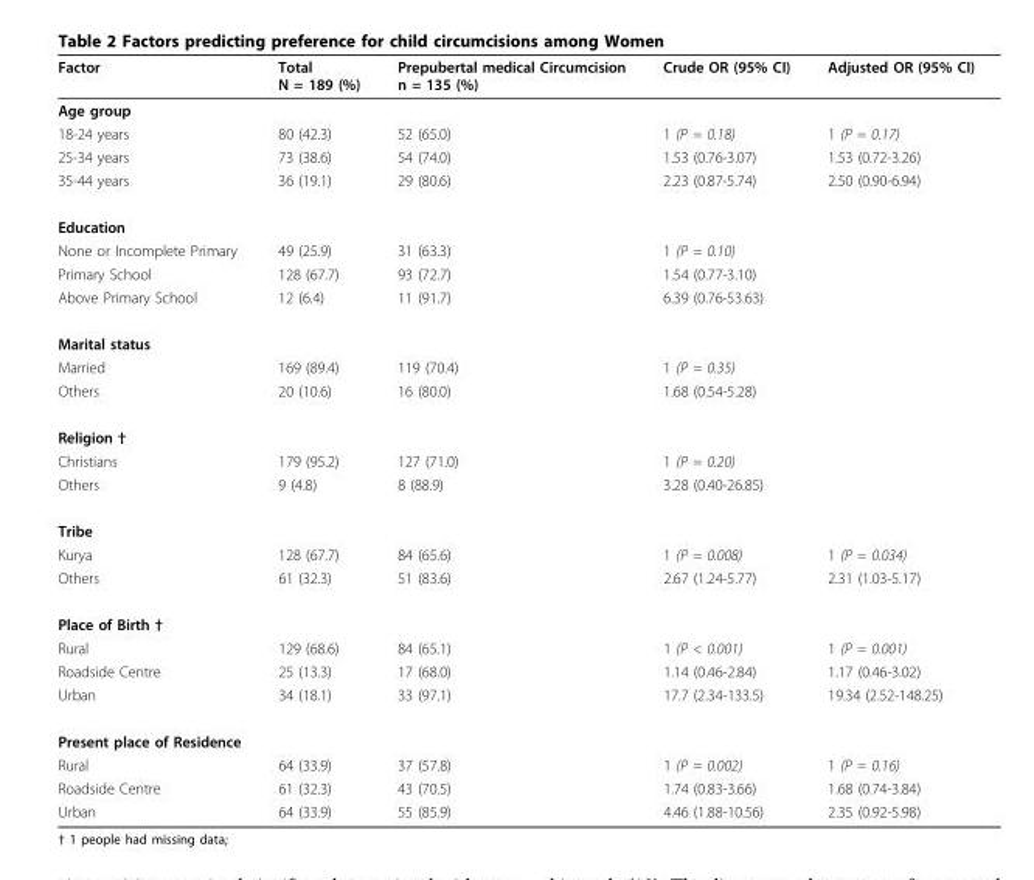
<table><thead><tr><td>Factor</td><td>Total N = 189 (%)</td><td>Prepubertal medical Circumcision n = 135 (%)</td><td>Crude OR (95% CI)</td><td>Adjusted OR (95% CI)</td></tr></thead><tbody><tr><td colspan="5">Age group</td></tr><tr><td>18-24 years</td><td>80 (42.3)</td><td>52 (65.0)</td><td>1 (P = 0.18)</td><td>1 (P = 0.17)</td></tr><tr><td>25-34 years</td><td>73 (38.6)</td><td>54 (74.0)</td><td>1.53 (0.76-3.07)</td><td>1.53 (0.72-3.26)</td></tr><tr><td>35-44 years</td><td>36 (19.1)</td><td>29 (80.6)</td><td>2.23 (0.87-5.74)</td><td>2.50 (0.90-6.94)</td></tr><tr><td colspan="5">Education</td></tr><tr><td>None or Incomplete Primary</td><td>49 (25.9)</td><td>31 (63.3)</td><td>1 (P = 0.10)</td><td></td></tr><tr><td>Primary School</td><td>128 (67.7)</td><td>93 (72.7)</td><td>1.54 (0.77-3.10)</td><td></td></tr><tr><td>Above Primary School</td><td>12 (6.4)</td><td>11 (91.7)</td><td>6.39 (0.76-53.63)</td><td></td></tr><tr><td colspan="5">Marital status</td></tr><tr><td>Married</td><td>169 (89.4)</td><td>119 (70.4)</td><td>1 (P = 0.35)</td><td></td></tr><tr><td>Others</td><td>20 (10.6)</td><td>16 (80.0)</td><td>1.68 (0.54-5.28)</td><td></td></tr><tr><td colspan="5">Religion †</td></tr><tr><td>Christians</td><td>179 (95.2)</td><td>127 (71.0)</td><td>1 (P = 0.20)</td><td></td></tr><tr><td>Others</td><td>9 (4.8)</td><td>8 (88.9)</td><td>3.28 (0.40-26.85)</td><td></td></tr><tr><td colspan="5">Tribe</td></tr><tr><td>Kurya</td><td>128 (67.7)</td><td>84 (65.6)</td><td>1 (P = 0.008)</td><td>1 (P = 0.034)</td></tr><tr><td>Others</td><td>61 (32.3)</td><td>51 (83.6)</td><td>2.67 (1.24-5.77)</td><td>2.31 (1.03-5.17)</td></tr><tr><td colspan="5">Place of Birth †</td></tr><tr><td>Rural</td><td>129 (68.6)</td><td>84 (65.1)</td><td>1 (P &lt; 0.001)</td><td>1 (P = 0.001)</td></tr><tr><td>Roadside Centre</td><td>25 (13.3)</td><td>17 (68.0)</td><td>1.14 (0.46-2.84)</td><td>1.17 (0.46-3.02)</td></tr><tr><td>Urban</td><td>34 (18.1)</td><td>33 (97.1)</td><td>17.7 (2.34-133.5)</td><td>19.34 (2.52-148.25)</td></tr><tr><td colspan="5">Present place of Residence</td></tr><tr><td>Rural</td><td>64 (33.9)</td><td>37 (57.8)</td><td>1 (P = 0.002)</td><td>1 (P = 0.16)</td></tr><tr><td>Roadside Centre</td><td>61 (32.3)</td><td>43 (70.5)</td><td>1.74 (0.83-3.66)</td><td>1.68 (0.74-3.84)</td></tr><tr><td>Urban</td><td>64 (33.9)</td><td>55 (85.9)</td><td>4.46 (1.88-10.56)</td><td>2.35 (0.92-5.98)</td></tr></tbody></table>